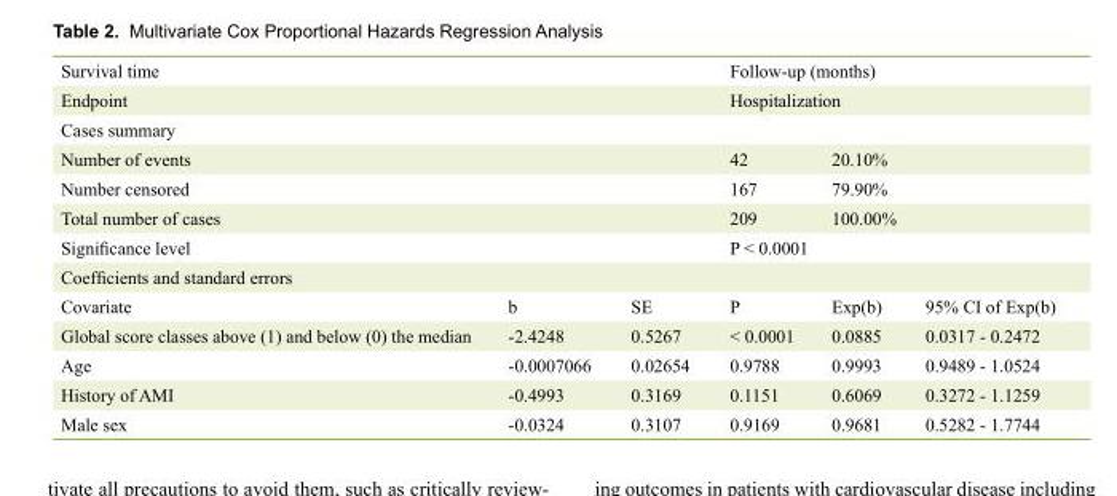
<table><tbody><tr><td colspan="3">Survival time</td><td colspan="3">Follow-up (months)</td></tr><tr><td colspan="3">Endpoint</td><td colspan="3">Hospitalization</td></tr><tr><td colspan="6">Cases summary</td></tr><tr><td colspan="3">Number of events</td><td>42</td><td colspan="2">20.10%</td></tr><tr><td colspan="3">Number censored</td><td>167</td><td colspan="2">79.90%</td></tr><tr><td colspan="3">Total number of cases</td><td>209</td><td colspan="2">100.00%</td></tr><tr><td colspan="3">Significance level</td><td colspan="3">P &lt; 0.0001</td></tr><tr><td colspan="6">Coefficients and standard errors</td></tr><tr><td>Covariate</td><td>b</td><td>SE</td><td>P</td><td>Exp(b)</td><td>95% CI of Exp(b)</td></tr><tr><td>Global score classes above (1) and below (0) the median</td><td>-2.4248</td><td>0.5267</td><td>&lt; 0.0001</td><td>0.0885</td><td>0.0317 - 0.2472</td></tr><tr><td>Age</td><td>-0.0007066</td><td>0.02654</td><td>0.9788</td><td>0.9993</td><td>0.9489 - 1.0524</td></tr><tr><td>History of AMI</td><td>-0.4993</td><td>0.3169</td><td>0.1151</td><td>0.6069</td><td>0.3272 - 1.1259</td></tr><tr><td>Male sex</td><td>-0.0324</td><td>0.3107</td><td>0.9169</td><td>0.9681</td><td>0.5282 - 1.7744</td></tr></tbody></table>